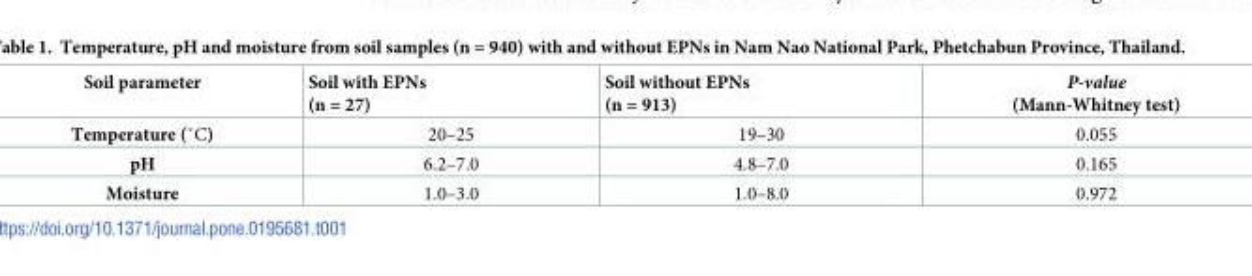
<table><thead><tr><td>Soil parameter</td><td>Soil with EPNs (n = 27)</td><td>Soil without EPNs (n = 913)</td><td>P-value (Mann-Whitney test)</td></tr></thead><tbody><tr><td>Temperature (˚C)</td><td>20–25</td><td>19–30</td><td>0.055</td></tr><tr><td>pH</td><td>6.2–7.0</td><td>4.8–7.0</td><td>0.165</td></tr><tr><td>Moisture</td><td>1.0–3.0</td><td>1.0–8.0</td><td>0.972</td></tr></tbody></table>